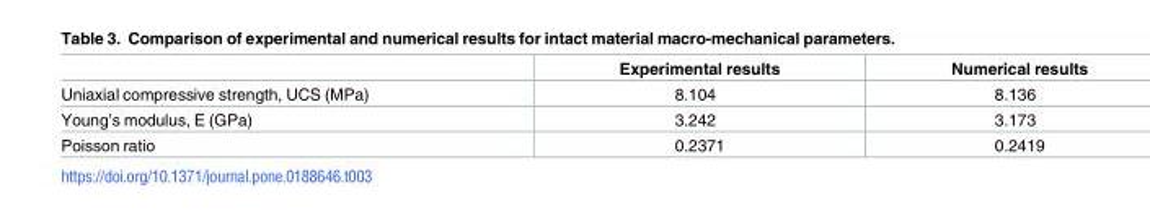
<table><thead><tr><td></td><td>Experimental results</td><td>Numerical results</td></tr></thead><tbody><tr><td>Uniaxial compressive strength, UCS (MPa)</td><td>8.104</td><td>8.136</td></tr><tr><td>Young’s modulus, E (GPa)</td><td>3.242</td><td>3.173</td></tr><tr><td>Poisson ratio</td><td>0.2371</td><td>0.2419</td></tr></tbody></table>